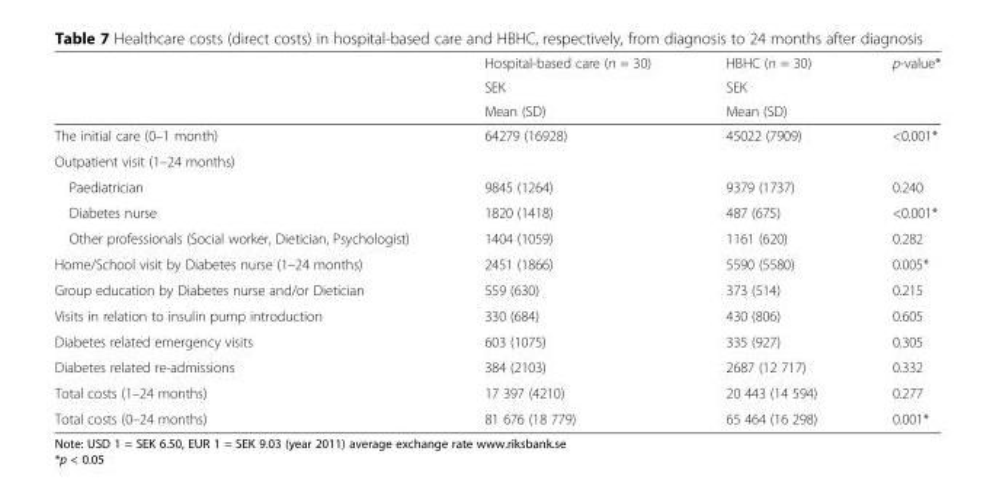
<table><thead><tr><td rowspan="3"></td><td rowspan="3">Hospital-based care (n = 30) SEK Mean (SD)</td><td rowspan="3">HBHC (n = 30) SEK Mean (SD)</td><td rowspan="3">p-value*</td></tr><tr></tr><tr></tr></thead><tbody><tr><td>The initial care (0–1 month)</td><td>64279 (16928)</td><td>45022 (7909)</td><td>&lt;0.001*</td></tr><tr><td colspan="4">Outpatient visit (1–24 months)</td></tr><tr><td>Paediatrician</td><td>9845 (1264)</td><td>9379 (1737)</td><td>0.240</td></tr><tr><td>Diabetes nurse</td><td>1820 (1418)</td><td>487 (675)</td><td>&lt;0.001*</td></tr><tr><td>Other professionals (Social worker, Dietician, Psychologist)</td><td>1404 (1059)</td><td>1161 (620)</td><td>0.282</td></tr><tr><td>Home/School visit by Diabetes nurse (1–24 months)</td><td>2451 (1866)</td><td>5590 (5580)</td><td>0.005*</td></tr><tr><td>Group education by Diabetes nurse and/or Dietician</td><td>559 (630)</td><td>373 (514)</td><td>0.215</td></tr><tr><td>Visits in relation to insulin pump introduction</td><td>330 (684)</td><td>430 (806)</td><td>0.605</td></tr><tr><td>Diabetes related emergency visits</td><td>603 (1075)</td><td>335 (927)</td><td>0.305</td></tr><tr><td>Diabetes related re-admissions</td><td>384 (2103)</td><td>2687 (12 717)</td><td>0.332</td></tr><tr><td>Total costs (1–24 months)</td><td>17 397 (4210)</td><td>20 443 (14 594)</td><td>0.277</td></tr><tr><td>Total costs (0–24 months)</td><td>81 676 (18 779)</td><td>65 464 (16 298)</td><td>0.001*</td></tr></tbody></table>